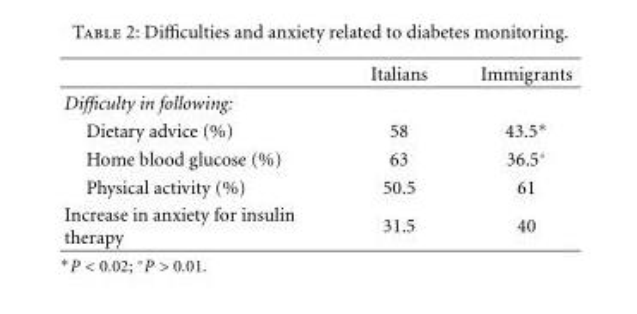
<table><thead><tr><td></td><td>Italians</td><td>Immigrants</td></tr></thead><tbody><tr><td colspan="3">Difficulty in following:</td></tr><tr><td>Dietary advice (%)</td><td>58</td><td>43.5∗</td></tr><tr><td>Home blood glucose (%)</td><td>63</td><td>36.5◦</td></tr><tr><td>Physical activity (%)</td><td>50.5</td><td>61</td></tr><tr><td>Increase in anxiety for insulin therapy</td><td>31.5</td><td>40</td></tr></tbody></table>